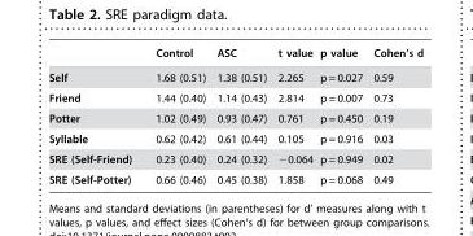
<table><thead><tr><td></td><td>Control</td><td>ASC</td><td>t value</td><td>p value</td><td>Cohen’s d</td></tr></thead><tbody><tr><td>Self</td><td>1.68 (0.51)</td><td>1.38 (0.51)</td><td>2.265</td><td>p = 0.027</td><td>0.59</td></tr><tr><td>Friend</td><td>1.44 (0.40)</td><td>1.14 (0.43)</td><td>2.814</td><td>p = 0.007</td><td>0.73</td></tr><tr><td>Potter</td><td>1.02 (0.49)</td><td>0.93 (0.47)</td><td>0.761</td><td>p = 0.450</td><td>0.19</td></tr><tr><td>Syllable</td><td>0.62 (0.42)</td><td>0.61 (0.44)</td><td>0.105</td><td>p = 0.916</td><td>0.03</td></tr><tr><td>SRE (Self-Friend)</td><td>0.23 (0.40)</td><td>0.24 (0.32)</td><td>−0.064</td><td>p = 0.949</td><td>0.02</td></tr><tr><td>SRE (Self-Potter)</td><td>0.66 (0.46)</td><td>0.45 (0.38)</td><td>1.858</td><td>p = 0.068</td><td>0.49</td></tr></tbody></table>